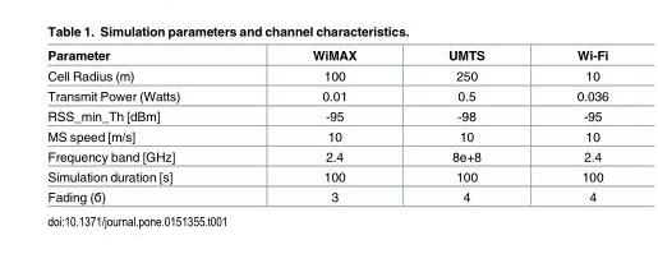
<table><thead><tr><td>Parameter</td><td>WiMAX</td><td>UMTS</td><td>Wi-Fi</td></tr></thead><tbody><tr><td>Cell Radius (m)</td><td>100</td><td>250</td><td>10</td></tr><tr><td>Transmit Power (Watts)</td><td>0.01</td><td>0.5</td><td>0.036</td></tr><tr><td>RSS_min_Th [dBm]</td><td>-95</td><td>-98</td><td>-95</td></tr><tr><td>MS speed [m/s]</td><td>10</td><td>10</td><td>10</td></tr><tr><td>Frequency band [GHz]</td><td>2.4</td><td>8e+8</td><td>2.4</td></tr><tr><td>Simulation duration [s]</td><td>100</td><td>100</td><td>100</td></tr><tr><td>Fading (Ϭ)</td><td>3</td><td>4</td><td>4</td></tr></tbody></table>